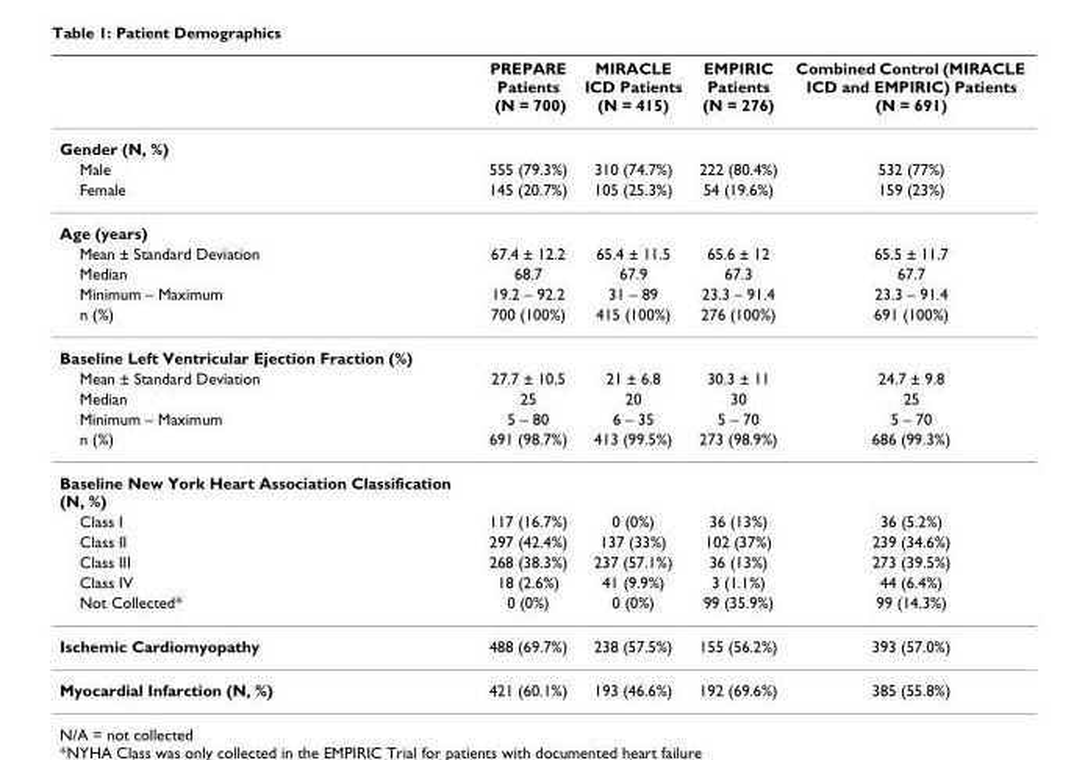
<table><thead><tr><td></td><td>PREPARE Patients (N = 700)</td><td>MIRACLE ICD Patients (N = 415)</td><td>EMPIRIC Patients (N = 276)</td><td>Combined Control (MIRACLE ICD and EMPIRIC) Patients (N = 691)</td></tr></thead><tbody><tr><td colspan="5">Gender (N, %)</td></tr><tr><td>Male</td><td>555 (79.3%)</td><td>310 (74.7%)</td><td>222 (80.4%)</td><td>532 (77%)</td></tr><tr><td>Female</td><td>145 (20.7%)</td><td>105 (25.3%)</td><td>54 (19.6%)</td><td>159 (23%)</td></tr><tr><td colspan="5">Age (years)</td></tr><tr><td>Mean ± Standard Deviation</td><td>67.4 ± 12.2</td><td>65.4 ± 11.5</td><td>65.6 ± 12</td><td>65.5 ± 11.7</td></tr><tr><td>Median</td><td>68.7</td><td>67.9</td><td>67.3</td><td>67.7</td></tr><tr><td>Minimum – Maximum</td><td>19.2 – 92.2</td><td>31 – 89</td><td>23.3 – 91.4</td><td>23.3 – 91.4</td></tr><tr><td>n (%)</td><td>700 (100%)</td><td>415 (100%)</td><td>276 (100%)</td><td>691 (100%)</td></tr><tr><td colspan="5">Baseline Left Ventricular Ejection Fraction (%)</td></tr><tr><td>Mean ± Standard Deviation</td><td>27.7 ± 10.5</td><td>21 ± 6.8</td><td>30.3 ± 11</td><td>24.7 ± 9.8</td></tr><tr><td>Median</td><td>25</td><td>20</td><td>30</td><td>25</td></tr><tr><td>Minimum – Maximum</td><td>5 – 80</td><td>6 – 35</td><td>5 – 70</td><td>5 – 70</td></tr><tr><td>n (%)</td><td>691 (98.7%)</td><td>413 (99.5%)</td><td>273 (98.9%)</td><td>686 (99.3%)</td></tr><tr><td colspan="5">Baseline New York Heart Association Classification (N, %)</td></tr><tr><td>Class I</td><td>117 (16.7%)</td><td>0 (0%)</td><td>36 (13%)</td><td>36 (5.2%)</td></tr><tr><td>Class II</td><td>297 (42.4%)</td><td>137 (33%)</td><td>102 (37%)</td><td>239 (34.6%)</td></tr><tr><td>Class III</td><td>268 (38.3%)</td><td>237 (57.1%)</td><td>36 (13%)</td><td>273 (39.5%)</td></tr><tr><td>Class IV</td><td>18 (2.6%)</td><td>41 (9.9%)</td><td>3 (1.1%)</td><td>44 (6.4%)</td></tr><tr><td>Not Collected*</td><td>0 (0%)</td><td>0 (0%)</td><td>99 (35.9%)</td><td>99 (14.3%)</td></tr><tr><td>Ischemic Cardiomyopathy</td><td>488 (69.7%)</td><td>238 (57.5%)</td><td>155 (56.2%)</td><td>393 (57.0%)</td></tr><tr><td>Myocardial Infarction (N, %)</td><td>421 (60.1%)</td><td>193 (46.6%)</td><td>192 (69.6%)</td><td>385 (55.8%)</td></tr></tbody></table>